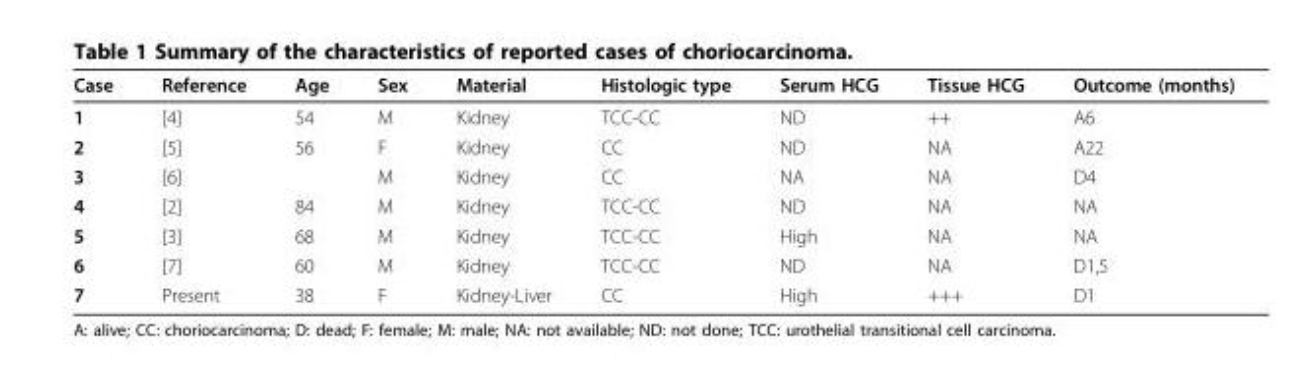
<table><thead><tr><td>Case</td><td>Reference</td><td>Age</td><td>Sex</td><td>Material</td><td>Histologic type</td><td>Serum HCG</td><td>Tissue HCG</td><td>Outcome (months)</td></tr></thead><tbody><tr><td>1</td><td>[4]</td><td>54</td><td>M</td><td>Kidney</td><td>TCC-CC</td><td>ND</td><td>++</td><td>A6</td></tr><tr><td>2</td><td>[5]</td><td>56</td><td>F</td><td>Kidney</td><td>CC</td><td>ND</td><td>NA</td><td>A22</td></tr><tr><td>3</td><td>[6]</td><td></td><td>M</td><td>Kidney</td><td>CC</td><td>NA</td><td>NA</td><td>D4</td></tr><tr><td>4</td><td>[2]</td><td>84</td><td>M</td><td>Kidney</td><td>TCC-CC</td><td>ND</td><td>NA</td><td>NA</td></tr><tr><td>5</td><td>[3]</td><td>68</td><td>M</td><td>Kidney</td><td>TCC-CC</td><td>High</td><td>NA</td><td>NA</td></tr><tr><td>6</td><td>[7]</td><td>60</td><td>M</td><td>Kidney</td><td>TCC-CC</td><td>ND</td><td>NA</td><td>D1,5</td></tr><tr><td>7</td><td>Present</td><td>38</td><td>F</td><td>Kidney-Liver</td><td>CC</td><td>High</td><td>+++</td><td>D1</td></tr></tbody></table>